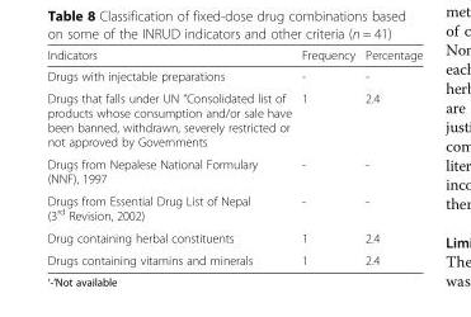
<table><thead><tr><td>Indicators</td><td>Frequency</td><td>Percentage</td></tr></thead><tbody><tr><td>Drugs with injectable preparations</td><td>-</td><td>-</td></tr><tr><td>Drugs that falls under UN “Consolidated list of products whose consumption and/or sale have been banned, withdrawn, severely restricted or not approved by Governments</td><td>1</td><td>2.4</td></tr><tr><td>Drugs from Nepalese National Formulary (NNF), 1997</td><td>-</td><td>-</td></tr><tr><td>Drugs from Essential Drug List of Nepal (3<sup>rd</sup> Revision, 2002)</td><td>-</td><td>-</td></tr><tr><td>Drug containing herbal constituents</td><td>1</td><td>2.4</td></tr><tr><td>Drugs containing vitamins and minerals</td><td>1</td><td>2.4</td></tr></tbody></table>